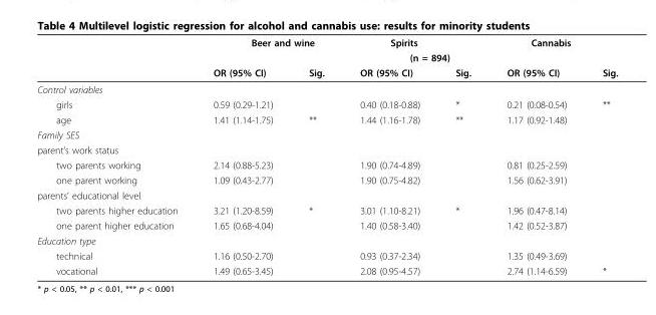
<table><thead><tr><td rowspan="3"></td><td colspan="2">Beer and wine</td><td>Spirits</td><td></td><td>Cannabis</td><td></td></tr><tr><td colspan="6">(n = 894)</td></tr><tr><td>OR (95% CI)</td><td>Sig.</td><td>OR (95% CI)</td><td>Sig.</td><td>OR (95% CI)</td><td>Sig.</td></tr></thead><tbody><tr><td colspan="7">Control variables</td></tr><tr><td>girls</td><td>0.59 (0.29-1.21)</td><td></td><td>0.40 (0.18-0.88)</td><td>*</td><td>0.21 (0.08-0.54)</td><td>**</td></tr><tr><td>age</td><td>1.41 (1.14-1.75)</td><td>**</td><td>1.44 (1.16-1.78)</td><td>**</td><td>1.17 (0.92-1.48)</td><td></td></tr><tr><td colspan="7">Family SES</td></tr><tr><td colspan="7">parent’s work status</td></tr><tr><td>two parents working</td><td>2.14 (0.88-5.23)</td><td></td><td>1.90 (0.74-4.89)</td><td></td><td>0.81 (0.25-2.59)</td><td></td></tr><tr><td>one parent working</td><td>1.09 (0.43-2.77)</td><td></td><td>1.90 (0.75-4.82)</td><td></td><td>1.56 (0.62-3.91)</td><td></td></tr><tr><td colspan="7">parents’ educational level</td></tr><tr><td>two parents higher education</td><td>3.21 (1.20-8.59)</td><td>*</td><td>3.01 (1.10-8.21)</td><td>*</td><td>1.96 (0.47-8.14)</td><td></td></tr><tr><td>one parent higher education</td><td>1.65 (0.68-4.04)</td><td></td><td>1.40 (0.58-3.40)</td><td></td><td>1.42 (0.52-3.87)</td><td></td></tr><tr><td colspan="7">Education type</td></tr><tr><td>technical</td><td>1.16 (0.50-2.70)</td><td></td><td>0.93 (0.37-2.34)</td><td></td><td>1.35 (0.49-3.69)</td><td></td></tr><tr><td>vocational</td><td>1.49 (0.65-3.45)</td><td></td><td>2.08 (0.95-4.57)</td><td></td><td>2.74 (1.14-6.59)</td><td>*</td></tr></tbody></table>